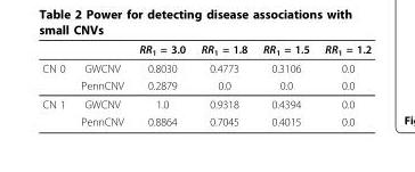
<table><thead><tr><td></td><td></td><td>RR<sub>1</sub> = 3.0</td><td>RR<sub>1</sub> = 1.8</td><td>RR<sub>1</sub> = 1.5</td><td>RR<sub>1</sub> = 1.2</td></tr></thead><tbody><tr><td rowspan="2">CN 0</td><td>GWCNV</td><td>0.8030</td><td>0.4773</td><td>0.3106</td><td>0.0</td></tr><tr><td>PennCNV</td><td>0.2879</td><td>0.0</td><td>0.0</td><td>0.0</td></tr><tr><td rowspan="2">CN 1</td><td>GWCNV</td><td>1.0</td><td>0.9318</td><td>0.4394</td><td>0.0</td></tr><tr><td>PennCNV</td><td>0.8864</td><td>0.7045</td><td>0.4015</td><td>0.0</td></tr></tbody></table>